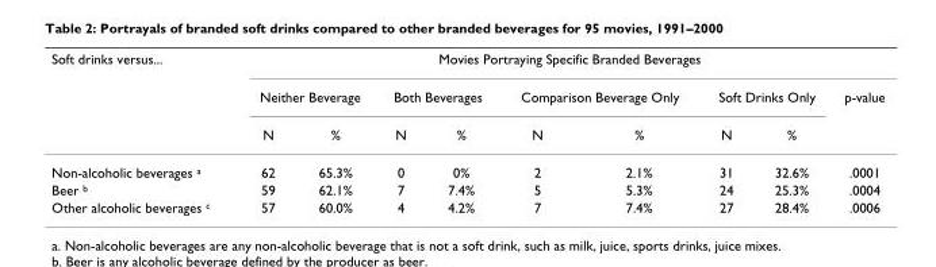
<table><thead><tr><td rowspan="3">Soft drinks versus...</td><td colspan="9">Movies Portraying Specific Branded Beverages</td></tr><tr><td colspan="2">Neither Beverage</td><td colspan="2">Both Beverages</td><td colspan="2">Comparison Beverage Only</td><td colspan="2">Soft Drinks Only</td><td rowspan="2">p-value</td></tr><tr><td>N</td><td>%</td><td>N</td><td>%</td><td>N</td><td>%</td><td>N</td><td>%</td></tr></thead><tbody><tr><td>Non-alcoholic beverages <sup>a</sup></td><td>62</td><td>65.3%</td><td>0</td><td>0%</td><td>2</td><td>2.1%</td><td>31</td><td>32.6%</td><td>.0001</td></tr><tr><td>Beer <sup>b</sup></td><td>59</td><td>62.1%</td><td>7</td><td>7.4%</td><td>5</td><td>5.3%</td><td>24</td><td>25.3%</td><td>.0004</td></tr><tr><td>Other alcoholic beverages <sup>c</sup></td><td>57</td><td>60.0%</td><td>4</td><td>4.2%</td><td>7</td><td>7.4%</td><td>27</td><td>28.4%</td><td>.0006</td></tr></tbody></table>